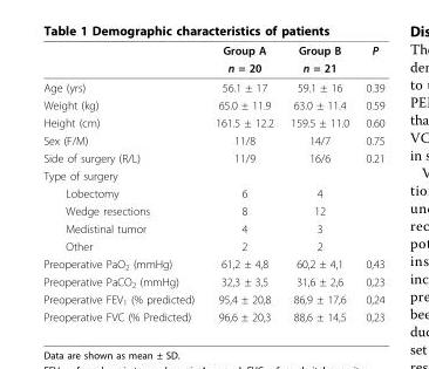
<table><thead><tr><td rowspan="2"></td><td rowspan="2">Group A n = 20</td><td rowspan="2">Group B n = 21</td><td rowspan="2">P</td></tr><tr></tr></thead><tbody><tr><td>Age (yrs)</td><td>56.1 ± 17</td><td>59.1 ± 16</td><td>0.39</td></tr><tr><td>Weight (kg)</td><td>65.0 ± 11.9</td><td>63.0 ± 11.4</td><td>0.59</td></tr><tr><td>Height (cm)</td><td>161.5 ± 12.2</td><td>159.5 ± 11.0</td><td>0.60</td></tr><tr><td>Sex (F/M)</td><td>11/8</td><td>14/7</td><td>0.75</td></tr><tr><td>Side of surgery (R/L)</td><td>11/9</td><td>16/6</td><td>0.21</td></tr><tr><td colspan="4">Type of surgery</td></tr><tr><td>Lobectomy</td><td>6</td><td>4</td><td></td></tr><tr><td>Wedge resections</td><td>8</td><td>12</td><td></td></tr><tr><td>Medistinal tumor</td><td>4</td><td>3</td><td></td></tr><tr><td>Other</td><td>2</td><td>2</td><td></td></tr><tr><td>Preoperative PaO<sub>2</sub> (mmHg)</td><td>61,2 ± 4,8</td><td>60,2 ± 4,1</td><td>0,43</td></tr><tr><td>Preoperative PaCO<sub>2</sub> (mmHg)</td><td>32,3 ± 3,5</td><td>31,6 ± 2,6</td><td>0,23</td></tr><tr><td>Preoperative FEV<sub>1</sub> (% predicted)</td><td>95,4 ± 20,8</td><td>86,9 ± 17,6</td><td>0,24</td></tr><tr><td>Preoperative FVC (% Predicted)</td><td>96,6 ± 20,3</td><td>88,6 ± 14,5</td><td>0,23</td></tr></tbody></table>